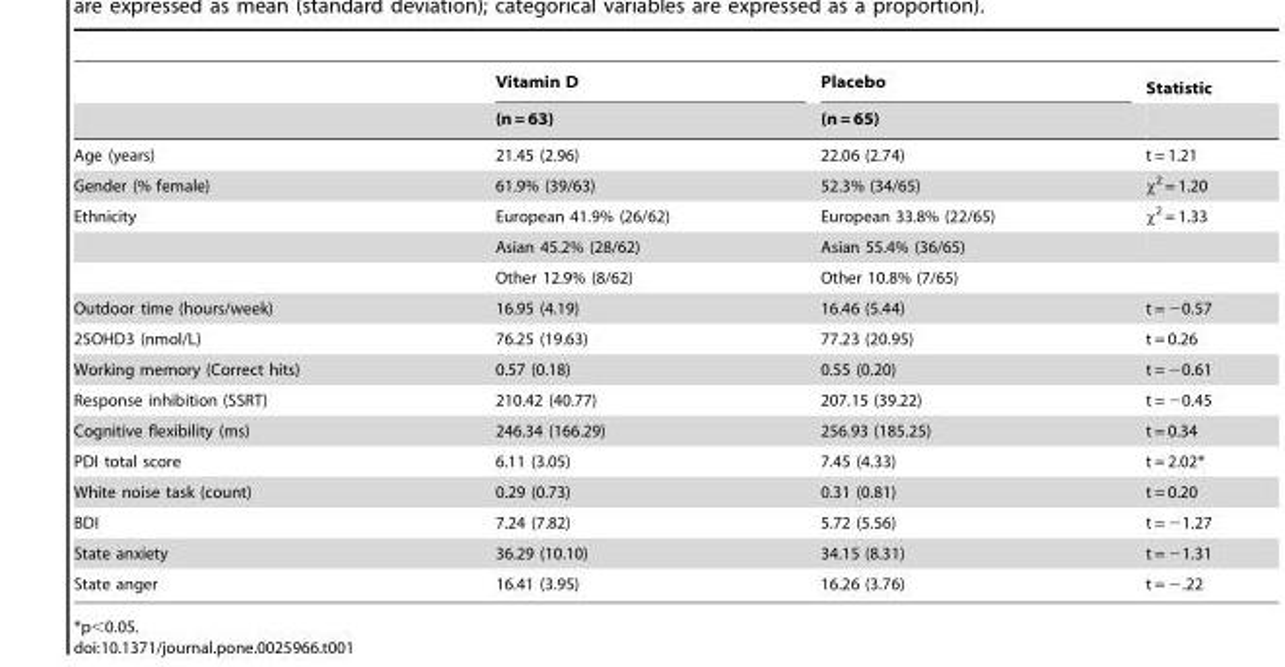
<table><thead><tr><td rowspan="2"></td><td rowspan="2">Vitamin D (n = 63)</td><td rowspan="2">Placebo (n = 65)</td><td rowspan="2">Statistic</td></tr><tr></tr></thead><tbody><tr><td>Age (years)</td><td>21.45 (2.96)</td><td>22.06 (2.74)</td><td>t = 1.21</td></tr><tr><td>Gender (% female)</td><td>61.9% (39/63)</td><td>52.3% (34/65)</td><td>χ<sup>2</sup> = 1.20</td></tr><tr><td rowspan="3">Ethnicity</td><td>European 41.9% (26/62)</td><td>European 33.8% (22/65)</td><td>χ<sup>2</sup> = 1.33</td></tr><tr><td>Asian 45.2% (28/62)</td><td>Asian 55.4% (36/65)</td><td></td></tr><tr><td>Other 12.9% (8/62)</td><td>Other 10.8% (7/65)</td><td></td></tr><tr><td>Outdoor time (hours/week)</td><td>16.95 (4.19)</td><td>16.46 (5.44)</td><td>t = −0.57</td></tr><tr><td>25OHD3 (nmol/L)</td><td>76.25 (19.63)</td><td>77.23 (20.95)</td><td>t = 0.26</td></tr><tr><td>Working memory (Correct hits)</td><td>0.57 (0.18)</td><td>0.55 (0.20)</td><td>t = −0.61</td></tr><tr><td>Response inhibition (SSRT)</td><td>210.42 (40.77)</td><td>207.15 (39.22)</td><td>t = −0.45</td></tr><tr><td>Cognitive flexibility (ms)</td><td>246.34 (166.29)</td><td>256.93 (185.25)</td><td>t = 0.34</td></tr><tr><td>PDI total score</td><td>6.11 (3.05)</td><td>7.45 (4.33)</td><td>t = 2.02*</td></tr><tr><td>White noise task (count)</td><td>0.29 (0.73)</td><td>0.31 (0.81)</td><td>t = 0.20</td></tr><tr><td>BDI</td><td>7.24 (7.82)</td><td>5.72 (5.56)</td><td>t = −1.27</td></tr><tr><td>State anxiety</td><td>36.29 (10.10)</td><td>34.15 (8.31)</td><td>t = −1.31</td></tr><tr><td>State anger</td><td>16.41 (3.95)</td><td>16.26 (3.76)</td><td>t = −.22</td></tr></tbody></table>